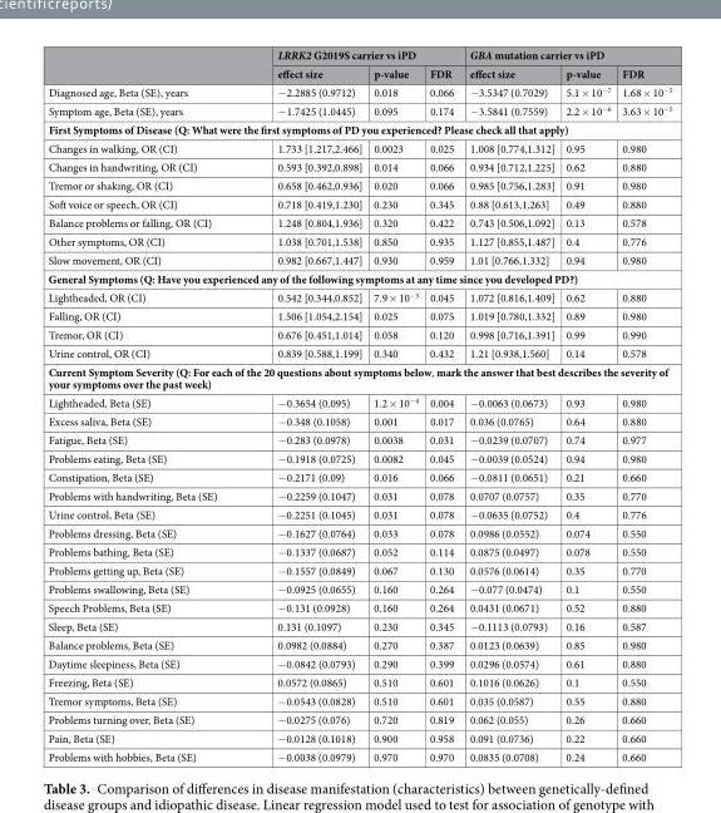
<table><thead><tr><td rowspan="2"></td><td colspan="3">LRRK2 G2019S carrier vs iPD</td><td colspan="3">GBA mutation carrier vs iPD</td></tr><tr><td>effect size</td><td>p-value</td><td>FDR</td><td>effect size</td><td>p-value</td><td>FDR</td></tr></thead><tbody><tr><td>Diagnosed age, Beta (SE), years</td><td>−2.2885 (0.9712)</td><td>0.018</td><td>0.066</td><td>−3.5347 (0.7029)</td><td>5.1 × 10<sup>−7</sup></td><td>1.68 × 10<sup>−5</sup></td></tr><tr><td>Symptom age, Beta (SE), years</td><td>−1.7425 (1.0445)</td><td>0.095</td><td>0.174</td><td>−3.5841 (0.7559)</td><td>2.2 × 10<sup>−6</sup></td><td>3.63 × 10<sup>−5</sup></td></tr><tr><td colspan="7">First Symptoms of Disease (Q: What were the first symptoms of PD you experienced? Please check all that apply)</td></tr><tr><td>Changes in walking, OR (CI)</td><td>1.733 [1.217,2.466]</td><td>0.0023</td><td>0.025</td><td>1.008 [0.774,1.312]</td><td>0.95</td><td>0.980</td></tr><tr><td>Changes in handwriting, OR (CI)</td><td>0.593 [0.392,0.898]</td><td>0.014</td><td>0.066</td><td>0.934 [0.712,1.225]</td><td>0.62</td><td>0.880</td></tr><tr><td>Tremor or shaking, OR (CI)</td><td>0.658 [0.462,0.936]</td><td>0.020</td><td>0.066</td><td>0.985 [0.756,1.283]</td><td>0.91</td><td>0.980</td></tr><tr><td>Soft voice or speech, OR (CI)</td><td>0.718 [0.419,1.230]</td><td>0.230</td><td>0.345</td><td>0.88 [0.613,1.263]</td><td>0.49</td><td>0.880</td></tr><tr><td>Balance problems or falling, OR (CI)</td><td>1.248 [0.804,1.936]</td><td>0.320</td><td>0.422</td><td>0.743 [0.506,1.092]</td><td>0.13</td><td>0.578</td></tr><tr><td>Other symptoms, OR (CI)</td><td>1.038 [0.701,1.538]</td><td>0.850</td><td>0.935</td><td>1.127 [0.855,1.487]</td><td>0.4</td><td>0.776</td></tr><tr><td>Slow movement, OR (CI)</td><td>0.982 [0.667,1.447]</td><td>0.930</td><td>0.959</td><td>1.01 [0.766,1.332]</td><td>0.94</td><td>0.980</td></tr><tr><td colspan="7">General Symptoms (Q: Have you experienced any of the following symptoms at any time since you developed PD?)</td></tr><tr><td>Lightheaded, OR (CI)</td><td>0.542 [0.344,0.852]</td><td>7.9 × 10<sup>−3</sup></td><td>0.045</td><td>1.072 [0.816,1.409]</td><td>0.62</td><td>0.880</td></tr><tr><td>Falling, OR (CI)</td><td>1.506 [1.054,2.154]</td><td>0.025</td><td>0.075</td><td>1.019 [0.780,1.332]</td><td>0.89</td><td>0.980</td></tr><tr><td>Tremor, OR (CI)</td><td>0.676 [0.451,1.014]</td><td>0.058</td><td>0.120</td><td>0.998 [0.716,1.391]</td><td>0.99</td><td>0.990</td></tr><tr><td>Urine control, OR (CI)</td><td>0.839 [0.588,1.199]</td><td>0.340</td><td>0.432</td><td>1.21 [0.938,1.560]</td><td>0.14</td><td>0.578</td></tr><tr><td colspan="7">Current Symptom Severity (Q: For each of the 20 questions about symptoms below, mark the answer that best describes the severity of your symptoms over the past week)</td></tr><tr><td>Lightheaded, Beta (SE)</td><td>−0.3654 (0.095)</td><td>1.2 × 10<sup>−4</sup></td><td>0.004</td><td>−0.0063 (0.0673)</td><td>0.93</td><td>0.980</td></tr><tr><td>Excess saliva, Beta (SE)</td><td>−0.348 (0.1058)</td><td>0.001</td><td>0.017</td><td>0.036 (0.0765)</td><td>0.64</td><td>0.880</td></tr><tr><td>Fatigue, Beta (SE)</td><td>−0.283 (0.0978)</td><td>0.0038</td><td>0.031</td><td>−0.0239 (0.0707)</td><td>0.74</td><td>0.977</td></tr><tr><td>Problems eating, Beta (SE)</td><td>−0.1918 (0.0725)</td><td>0.0082</td><td>0.045</td><td>−0.0039 (0.0524)</td><td>0.94</td><td>0.980</td></tr><tr><td>Constipation, Beta (SE)</td><td>−0.2171 (0.09)</td><td>0.016</td><td>0.066</td><td>−0.0811 (0.0651)</td><td>0.21</td><td>0.660</td></tr><tr><td>Problems with handwriting, Beta (SE)</td><td>−0.2259 (0.1047)</td><td>0.031</td><td>0.078</td><td>0.0707 (0.0757)</td><td>0.35</td><td>0.770</td></tr><tr><td>Urine control, Beta (SE)</td><td>−0.2251 (0.1045)</td><td>0.031</td><td>0.078</td><td>−0.0635 (0.0752)</td><td>0.4</td><td>0.776</td></tr><tr><td>Problems dressing, Beta (SE)</td><td>−0.1627 (0.0764)</td><td>0.033</td><td>0.078</td><td>0.0986 (0.0552)</td><td>0.074</td><td>0.550</td></tr><tr><td>Problems bathing, Beta (SE)</td><td>−0.1337 (0.0687)</td><td>0.052</td><td>0.114</td><td>0.0875 (0.0497)</td><td>0.078</td><td>0.550</td></tr><tr><td>Problems getting up, Beta (SE)</td><td>−0.1557 (0.0849)</td><td>0.067</td><td>0.130</td><td>0.0576 (0.0614)</td><td>0.35</td><td>0.770</td></tr><tr><td>Problems swallowing, Beta (SE)</td><td>−0.0925 (0.0655)</td><td>0.160</td><td>0.264</td><td>−0.077 (0.0474)</td><td>0.1</td><td>0.550</td></tr><tr><td>Speech Problems, Beta (SE)</td><td>−0.131 (0.0928)</td><td>0.160</td><td>0.264</td><td>0.0431 (0.0671)</td><td>0.52</td><td>0.880</td></tr><tr><td>Sleep, Beta (SE)</td><td>0.131 (0.1097)</td><td>0.230</td><td>0.345</td><td>−0.1113 (0.0793)</td><td>0.16</td><td>0.587</td></tr><tr><td>Balance problems, Beta (SE)</td><td>0.0982 (0.0884)</td><td>0.270</td><td>0.387</td><td>0.0123 (0.0639)</td><td>0.85</td><td>0.980</td></tr><tr><td>Daytime sleepiness, Beta (SE)</td><td>−0.0842 (0.0793)</td><td>0.290</td><td>0.399</td><td>0.0296 (0.0574)</td><td>0.61</td><td>0.880</td></tr><tr><td>Freezing, Beta (SE)</td><td>0.0572 (0.0865)</td><td>0.510</td><td>0.601</td><td>0.1016 (0.0626)</td><td>0.1</td><td>0.550</td></tr><tr><td>Tremor symptoms, Beta (SE)</td><td>−0.0543 (0.0828)</td><td>0.510</td><td>0.601</td><td>0.035 (0.0587)</td><td>0.55</td><td>0.880</td></tr><tr><td>Problems turning over, Beta (SE)</td><td>−0.0275 (0.076)</td><td>0.720</td><td>0.819</td><td>0.062 (0.055)</td><td>0.26</td><td>0.660</td></tr><tr><td>Pain, Beta (SE)</td><td>−0.0128 (0.1018)</td><td>0.900</td><td>0.958</td><td>0.091 (0.0736)</td><td>0.22</td><td>0.660</td></tr><tr><td>Problems with hobbies, Beta (SE)</td><td>−0.0038 (0.0979)</td><td>0.970</td><td>0.970</td><td>0.0835 (0.0708)</td><td>0.24</td><td>0.660</td></tr></tbody></table>